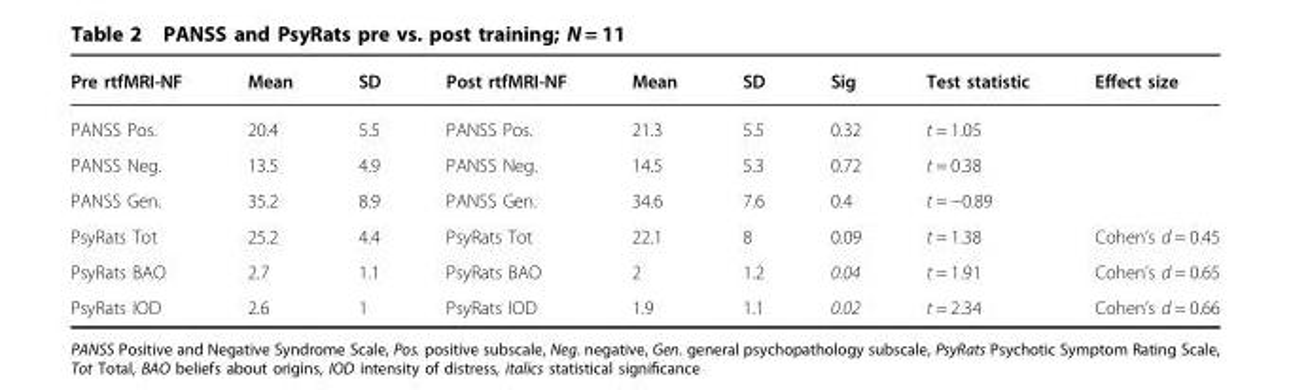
<table><thead><tr><td>Pre rtfMRI-NF</td><td>Mean</td><td>SD</td><td>Post rtfMRI-NF</td><td>Mean</td><td>SD</td><td>Sig</td><td>Test statistic</td><td>Effect size</td></tr></thead><tbody><tr><td>PANSS Pos.</td><td>20.4</td><td>5.5</td><td>PANSS Pos.</td><td>21.3</td><td>5.5</td><td>0.32</td><td>t = 1.05</td><td></td></tr><tr><td>PANSS Neg.</td><td>13.5</td><td>4.9</td><td>PANSS Neg.</td><td>14.5</td><td>5.3</td><td>0.72</td><td>t = 0.38</td><td></td></tr><tr><td>PANSS Gen.</td><td>35.2</td><td>8.9</td><td>PANSS Gen.</td><td>34.6</td><td>7.6</td><td>0.4</td><td>t = −0.89</td><td></td></tr><tr><td>PsyRats Tot</td><td>25.2</td><td>4.4</td><td>PsyRats Tot</td><td>22.1</td><td>8</td><td>0.09</td><td>t = 1.38</td><td>Cohen’s d = 0.45</td></tr><tr><td>PsyRats BAO</td><td>2.7</td><td>1.1</td><td>PsyRats BAO</td><td>2</td><td>1.2</td><td>0.04</td><td>t = 1.91</td><td>Cohen’s d = 0.65</td></tr><tr><td>PsyRats IOD</td><td>2.6</td><td>1</td><td>PsyRats IOD</td><td>1.9</td><td>1.1</td><td>0.02</td><td>t = 2.34</td><td>Cohen’s d = 0.66</td></tr></tbody></table>